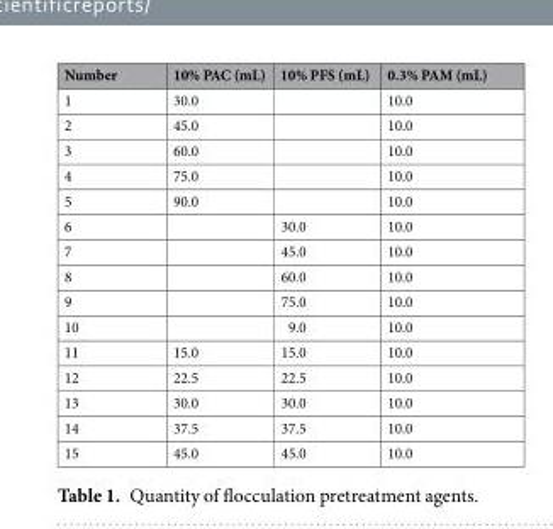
<table><thead><tr><td>Number</td><td>10% PAC (mL)</td><td>10% PFS (mL)</td><td>0.3% PAM (mL)</td></tr></thead><tbody><tr><td>1</td><td>30.0</td><td></td><td>10.0</td></tr><tr><td>2</td><td>45.0</td><td></td><td>10.0</td></tr><tr><td>3</td><td>60.0</td><td></td><td>10.0</td></tr><tr><td>4</td><td>75.0</td><td></td><td>10.0</td></tr><tr><td>5</td><td>90.0</td><td></td><td>10.0</td></tr><tr><td>6</td><td></td><td>30.0</td><td>10.0</td></tr><tr><td>7</td><td></td><td>45.0</td><td>10.0</td></tr><tr><td>8</td><td></td><td>60.0</td><td>10.0</td></tr><tr><td>9</td><td></td><td>75.0</td><td>10.0</td></tr><tr><td>10</td><td></td><td>9.0</td><td>10.0</td></tr><tr><td>11</td><td>15.0</td><td>15.0</td><td>10.0</td></tr><tr><td>12</td><td>22.5</td><td>22.5</td><td>10.0</td></tr><tr><td>13</td><td>30.0</td><td>30.0</td><td>10.0</td></tr><tr><td>14</td><td>37.5</td><td>37.5</td><td>10.0</td></tr><tr><td>15</td><td>45.0</td><td>45.0</td><td>10.0</td></tr></tbody></table>